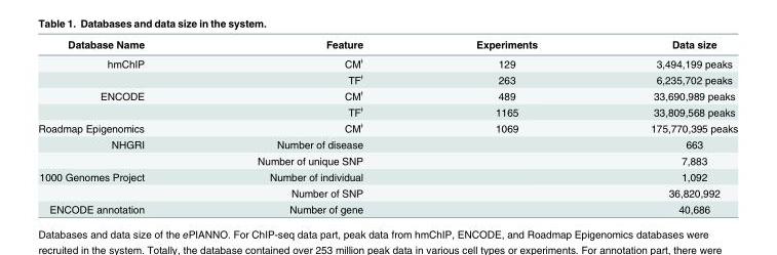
<table><thead><tr><td>Database Name</td><td>Feature</td><td>Experiments</td><td>Data size</td></tr></thead><tbody><tr><td rowspan="2">hmChIP</td><td>CM<sup>ⱡ</sup></td><td>129</td><td>3,494,199 peaks</td></tr><tr><td>TF<sup>ⱡ</sup></td><td>263</td><td>6,235,702 peaks</td></tr><tr><td rowspan="2">ENCODE</td><td>CM<sup>ⱡ</sup></td><td>489</td><td>33,690,989 peaks</td></tr><tr><td>TF<sup>ⱡ</sup></td><td>1165</td><td>33,809,568 peaks</td></tr><tr><td>Roadmap Epigenomics</td><td>CM<sup>ⱡ</sup></td><td>1069</td><td>175,770,395 peaks</td></tr><tr><td rowspan="2">NHGRI</td><td>Number of disease</td><td></td><td>663</td></tr><tr><td>Number of unique SNP</td><td></td><td>7,883</td></tr><tr><td rowspan="2">1000 Genomes Project</td><td>Number of individual</td><td></td><td>1,092</td></tr><tr><td>Number of SNP</td><td></td><td>36,820,992</td></tr><tr><td>ENCODE annotation</td><td>Number of gene</td><td></td><td>40,686</td></tr></tbody></table>